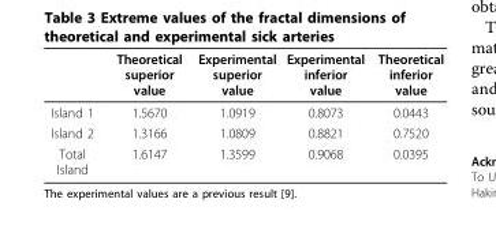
<table><thead><tr><td></td><td>Theoretical superior value</td><td>Experimental superior value</td><td>Experimental inferior value</td><td>Theoretical inferior value</td></tr></thead><tbody><tr><td>Island 1</td><td>1.5670</td><td>1.0919</td><td>0.8073</td><td>0.0443</td></tr><tr><td>Island 2</td><td>1.3166</td><td>1.0809</td><td>0.8821</td><td>0.7520</td></tr><tr><td>Total Island</td><td>1.6147</td><td>1.3599</td><td>0.9068</td><td>0.0395</td></tr></tbody></table>